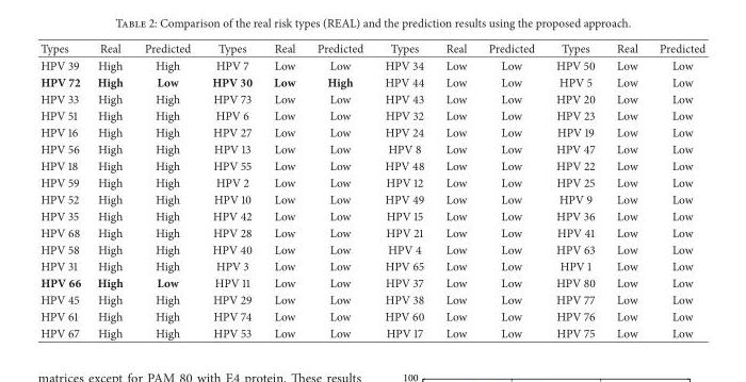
<table><thead><tr><td>Types</td><td>Real</td><td>Predicted</td><td>Types</td><td>Real</td><td>Predicted</td><td>Types</td><td>Real</td><td>Predicted</td><td>Types</td><td>Real</td><td>Predicted</td></tr></thead><tbody><tr><td>HPV 39</td><td>High</td><td>High</td><td>HPV 7</td><td>Low</td><td>Low</td><td>HPV 34</td><td>Low</td><td>Low</td><td>HPV 50</td><td>Low</td><td>Low</td></tr><tr><td>HPV 72</td><td>High</td><td>Low</td><td>HPV 30</td><td>Low</td><td>High</td><td>HPV 44</td><td>Low</td><td>Low</td><td>HPV 5</td><td>Low</td><td>Low</td></tr><tr><td>HPV 33</td><td>High</td><td>High</td><td>HPV 73</td><td>Low</td><td>Low</td><td>HPV 43</td><td>Low</td><td>Low</td><td>HPV 20</td><td>Low</td><td>Low</td></tr><tr><td>HPV 51</td><td>High</td><td>High</td><td>HPV 6</td><td>Low</td><td>Low</td><td>HPV 32</td><td>Low</td><td>Low</td><td>HPV 23</td><td>Low</td><td>Low</td></tr><tr><td>HPV 16</td><td>High</td><td>High</td><td>HPV 27</td><td>Low</td><td>Low</td><td>HPV 24</td><td>Low</td><td>Low</td><td>HPV 19</td><td>Low</td><td>Low</td></tr><tr><td>HPV 56</td><td>High</td><td>High</td><td>HPV 13</td><td>Low</td><td>Low</td><td>HPV 8</td><td>Low</td><td>Low</td><td>HPV 47</td><td>Low</td><td>Low</td></tr><tr><td>HPV 18</td><td>High</td><td>High</td><td>HPV 55</td><td>Low</td><td>Low</td><td>HPV 48</td><td>Low</td><td>Low</td><td>HPV 22</td><td>Low</td><td>Low</td></tr><tr><td>HPV 59</td><td>High</td><td>High</td><td>HPV 2</td><td>Low</td><td>Low</td><td>HPV 12</td><td>Low</td><td>Low</td><td>HPV 25</td><td>Low</td><td>Low</td></tr><tr><td>HPV 52</td><td>High</td><td>High</td><td>HPV 10</td><td>Low</td><td>Low</td><td>HPV 49</td><td>Low</td><td>Low</td><td>HPV 9</td><td>Low</td><td>Low</td></tr><tr><td>HPV 35</td><td>High</td><td>High</td><td>HPV 42</td><td>Low</td><td>Low</td><td>HPV 15</td><td>Low</td><td>Low</td><td>HPV 36</td><td>Low</td><td>Low</td></tr><tr><td>HPV 68</td><td>High</td><td>High</td><td>HPV 28</td><td>Low</td><td>Low</td><td>HPV 21</td><td>Low</td><td>Low</td><td>HPV 41</td><td>Low</td><td>Low</td></tr><tr><td>HPV 58</td><td>High</td><td>High</td><td>HPV 40</td><td>Low</td><td>Low</td><td>HPV 4</td><td>Low</td><td>Low</td><td>HPV 63</td><td>Low</td><td>Low</td></tr><tr><td>HPV 31</td><td>High</td><td>High</td><td>HPV 3</td><td>Low</td><td>Low</td><td>HPV 65</td><td>Low</td><td>Low</td><td>HPV 1</td><td>Low</td><td>Low</td></tr><tr><td>HPV 66</td><td>High</td><td>Low</td><td>HPV 11</td><td>Low</td><td>Low</td><td>HPV 37</td><td>Low</td><td>Low</td><td>HPV 80</td><td>Low</td><td>Low</td></tr><tr><td>HPV 45</td><td>High</td><td>High</td><td>HPV 29</td><td>Low</td><td>Low</td><td>HPV 38</td><td>Low</td><td>Low</td><td>HPV 77</td><td>Low</td><td>Low</td></tr><tr><td>HPV 61</td><td>High</td><td>High</td><td>HPV 74</td><td>Low</td><td>Low</td><td>HPV 60</td><td>Low</td><td>Low</td><td>HPV 76</td><td>Low</td><td>Low</td></tr><tr><td>HPV 67</td><td>High</td><td>High</td><td>HPV 53</td><td>Low</td><td>Low</td><td>HPV 17</td><td>Low</td><td>Low</td><td>HPV 75</td><td>Low</td><td>Low</td></tr></tbody></table>